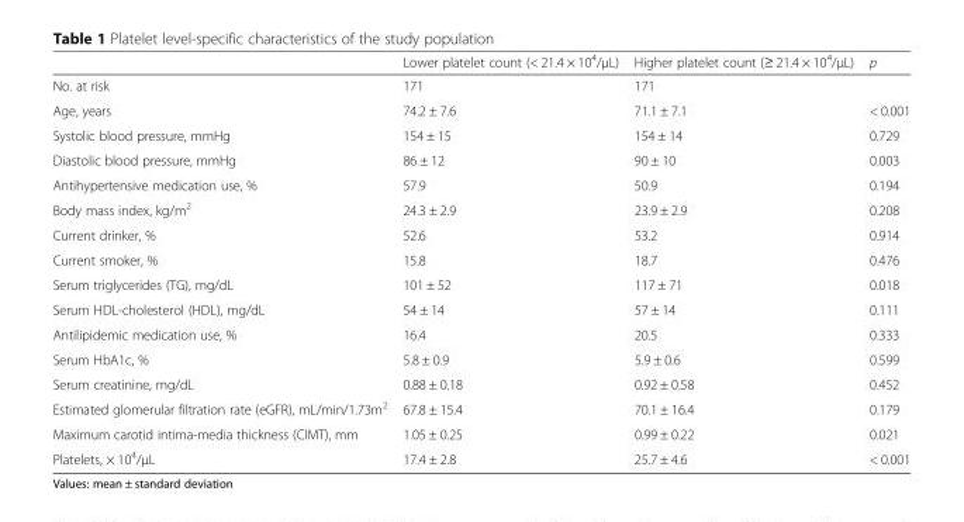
<table><thead><tr><td></td><td>Lower platelet count (&lt; 21.4 × 10<sup>4</sup>/μL)</td><td>Higher platelet count (≥ 21.4 × 10<sup>4</sup>/μL)</td><td>p</td></tr></thead><tbody><tr><td>No. at risk</td><td>171</td><td>171</td><td></td></tr><tr><td>Age, years</td><td>74.2 ± 7.6</td><td>71.1 ± 7.1</td><td>&lt; 0.001</td></tr><tr><td>Systolic blood pressure, mmHg</td><td>154 ± 15</td><td>154 ± 14</td><td>0.729</td></tr><tr><td>Diastolic blood pressure, mmHg</td><td>86 ± 12</td><td>90 ± 10</td><td>0.003</td></tr><tr><td>Antihypertensive medication use, %</td><td>57.9</td><td>50.9</td><td>0.194</td></tr><tr><td>Body mass index, kg/m<sup>2</sup></td><td>24.3 ± 2.9</td><td>23.9 ± 2.9</td><td>0.208</td></tr><tr><td>Current drinker, %</td><td>52.6</td><td>53.2</td><td>0.914</td></tr><tr><td>Current smoker, %</td><td>15.8</td><td>18.7</td><td>0.476</td></tr><tr><td>Serum triglycerides (TG), mg/dL</td><td>101 ± 52</td><td>117 ± 71</td><td>0.018</td></tr><tr><td>Serum HDL-cholesterol (HDL), mg/dL</td><td>54 ± 14</td><td>57 ± 14</td><td>0.111</td></tr><tr><td>Antilipidemic medication use, %</td><td>16.4</td><td>20.5</td><td>0.333</td></tr><tr><td>Serum HbA1c, %</td><td>5.8 ± 0.9</td><td>5.9 ± 0.6</td><td>0.599</td></tr><tr><td>Serum creatinine, mg/dL</td><td>0.88 ± 0.18</td><td>0.92 ± 0.58</td><td>0.452</td></tr><tr><td>Estimated glomerular filtration rate (eGFR), mL/min/1.73m<sup>2</sup></td><td>67.8 ± 15.4</td><td>70.1 ± 16.4</td><td>0.179</td></tr><tr><td>Maximum carotid intima-media thickness (CIMT), mm</td><td>1.05 ± 0.25</td><td>0.99 ± 0.22</td><td>0.021</td></tr><tr><td>Platelets, × 10<sup>4</sup>/μL</td><td>17.4 ± 2.8</td><td>25.7 ± 4.6</td><td>&lt; 0.001</td></tr></tbody></table>